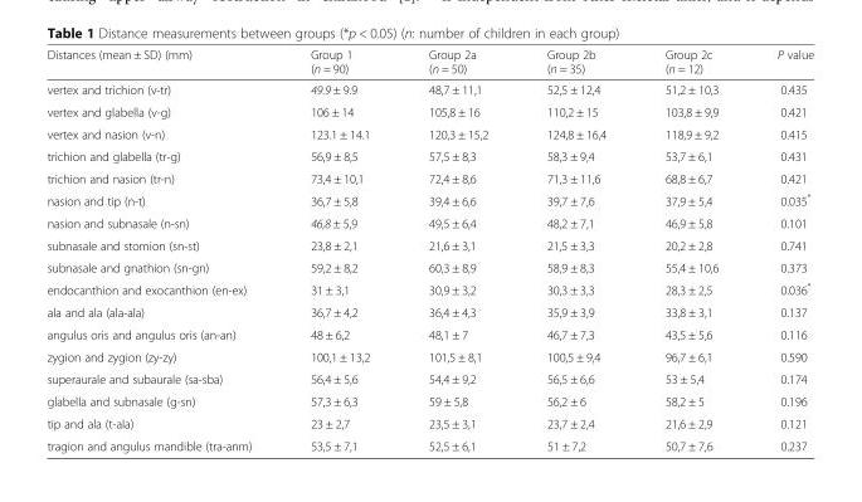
<table><thead><tr><td>Distances (mean ± SD) (mm)</td><td>Group 1 (n = 90)</td><td>Group 2a (n = 50)</td><td>Group 2b (n = 35)</td><td>Group 2c (n = 12)</td><td>P value</td></tr></thead><tbody><tr><td>vertex and trichion (v-tr)</td><td>49.9 ± 9.9</td><td>48,7 ± 11,1</td><td>52,5 ± 12,4</td><td>51,2 ± 10,3</td><td>0.435</td></tr><tr><td>vertex and glabella (v-g)</td><td>106 ± 14</td><td>105,8 ± 16</td><td>110,2 ± 15</td><td>103,8 ± 9,9</td><td>0.421</td></tr><tr><td>vertex and nasion (v-n)</td><td>123.1 ± 14.1</td><td>120,3 ± 15,2</td><td>124,8 ± 16,4</td><td>118,9 ± 9,2</td><td>0.415</td></tr><tr><td>trichion and glabella (tr-g)</td><td>56,9 ± 8,5</td><td>57,5 ± 8,3</td><td>58,3 ± 9,4</td><td>53,7 ± 6,1</td><td>0.431</td></tr><tr><td>trichion and nasion (tr-n)</td><td>73,4 ± 10,1</td><td>72,4 ± 8,6</td><td>71,3 ± 11,6</td><td>68,8 ± 6,7</td><td>0.421</td></tr><tr><td>nasion and tip (n-t)</td><td>36,7 ± 5,8</td><td>39,4 ± 6,6</td><td>39,7 ± 7,6</td><td>37,9 ± 5,4</td><td>0.035*</td></tr><tr><td>nasion and subnasale (n-sn)</td><td>46,8 ± 5,9</td><td>49,5 ± 6,4</td><td>48,2 ± 7,1</td><td>46,9 ± 5,8</td><td>0.101</td></tr><tr><td>subnasale and stomion (sn-st)</td><td>23,8 ± 2,1</td><td>21,6 ± 3,1</td><td>21,5 ± 3,3</td><td>20,2 ± 2,8</td><td>0.741</td></tr><tr><td>subnasale and gnathion (sn-gn)</td><td>59,2 ± 8,2</td><td>60,3 ± 8,9</td><td>58,9 ± 8,3</td><td>55,4 ± 10,6</td><td>0.373</td></tr><tr><td>endocanthion and exocanthion (en-ex)</td><td>31 ± 3,1</td><td>30,9 ± 3,2</td><td>30,3 ± 3,3</td><td>28,3 ± 2,5</td><td>0.036*</td></tr><tr><td>ala and ala (ala-ala)</td><td>36,7 ± 4,2</td><td>36,4 ± 4,3</td><td>35,9 ± 3,9</td><td>33,8 ± 3,1</td><td>0.137</td></tr><tr><td>angulus oris and angulus oris (an-an)</td><td>48 ± 6,2</td><td>48,1 ± 7</td><td>46,7 ± 7,3</td><td>43,5 ± 5,6</td><td>0.116</td></tr><tr><td>zygion and zygion (zy-zy)</td><td>100,1 ± 13,2</td><td>101,5 ± 8,1</td><td>100,5 ± 9,4</td><td>96,7 ± 6,1</td><td>0.590</td></tr><tr><td>superaurale and subaurale (sa-sba)</td><td>56,4 ± 5,6</td><td>54,4 ± 9,2</td><td>56,5 ± 6,6</td><td>53 ± 5,4</td><td>0.174</td></tr><tr><td>glabella and subnasale (g-sn)</td><td>57,3 ± 6,3</td><td>59 ± 5,8</td><td>56,2 ± 6</td><td>58,2 ± 5</td><td>0.196</td></tr><tr><td>tip and ala (t-ala)</td><td>23 ± 2,7</td><td>23,5 ± 3,1</td><td>23,7 ± 2,4</td><td>21,6 ± 2,9</td><td>0.121</td></tr><tr><td>tragion and angulus mandible (tra-anm)</td><td>53,5 ± 7,1</td><td>52,5 ± 6,1</td><td>51 ± 7,2</td><td>50,7 ± 7,6</td><td>0.237</td></tr></tbody></table>